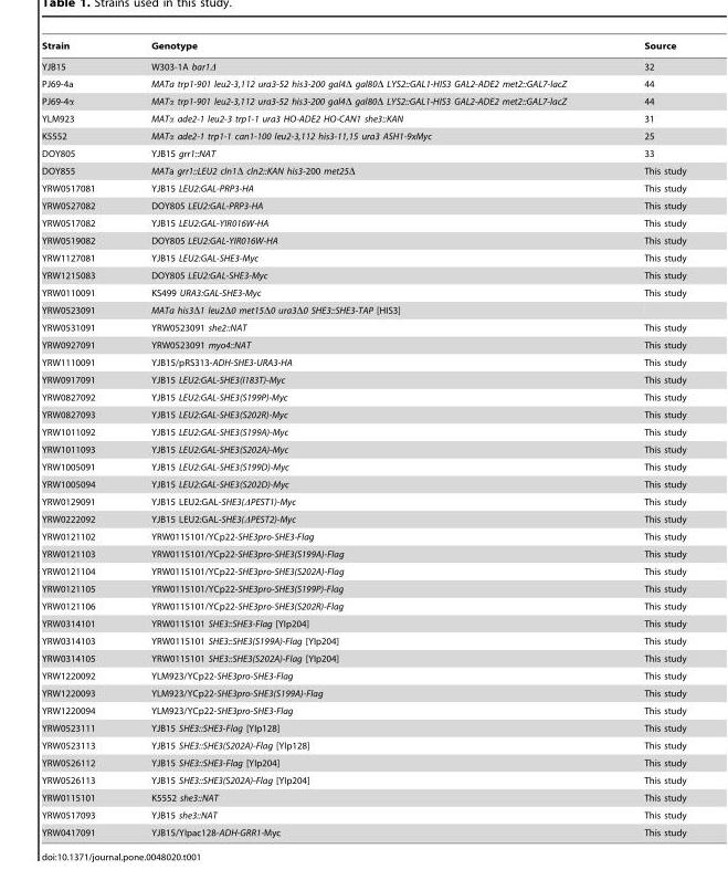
<table><thead><tr><td>Strain</td><td>Genotype</td><td>Source</td></tr></thead><tbody><tr><td>YJB15</td><td>W303-1A bar1Δ</td><td>32</td></tr><tr><td>PJ69-4a</td><td>MATa trp1-901 leu2-3,112 ura3-52 his3-200 gal4Δ gal80Δ LYS2::GAL1-HIS3 GAL2-ADE2 met2::GAL7-lacZ</td><td>44</td></tr><tr><td>PJ69-4α</td><td>MATα trp1-901 leu2-3,112 ura3-52 his3-200 gal4Δ gal80Δ LYS2::GAL1-HIS3 GAL2-ADE2 met2::GAL7-lacZ</td><td>44</td></tr><tr><td>YLM923</td><td>MATα ade2-1 leu2-3 trp1-1 ura3 HO-ADE2 HO-CAN1 she3::KAN</td><td>31</td></tr><tr><td>K5552</td><td>MATα ade2-1 trp1-1 can1-100 leu2-3,112 his3-11,15 ura3 ASH1-9xMyc</td><td>25</td></tr><tr><td>DOY805</td><td>YJB15 grr1::NAT</td><td>33</td></tr><tr><td>DOY855</td><td>MATa grr1::LEU2 cln1Δ cln2::KAN his3-200 met25Δ</td><td>This study</td></tr><tr><td>YRW0517081</td><td>YJB15 LEU2:GAL-PRP3-HA</td><td>This study</td></tr><tr><td>YRW0527082</td><td>DOY805 LEU2:GAL-PRP3-HA</td><td>This study</td></tr><tr><td>YRW0517082</td><td>YJB15 LEU2:GAL-YIR016W-HA</td><td>This study</td></tr><tr><td>YRW0519082</td><td>DOY805 LEU2:GAL-YIR016W-HA</td><td>This study</td></tr><tr><td>YRW1127081</td><td>YJB15 LEU2:GAL-SHE3-Myc</td><td>This study</td></tr><tr><td>YRW1215083</td><td>DOY805 LEU2:GAL-SHE3-Myc</td><td>This study</td></tr><tr><td>YRW0110091</td><td>KS499 URA3:GAL-SHE3-Myc</td><td>This study</td></tr><tr><td>YRW0523091</td><td>MATa his3Δ1 leu2Δ0 met15Δ0 ura3Δ0 SHE3::SHE3-TAP [HIS3]</td><td></td></tr><tr><td>YRW0531091</td><td>YRW0523091 she2::NAT</td><td>This study</td></tr><tr><td>YRW0927091</td><td>YRW0523091 myo4::NAT</td><td>This study</td></tr><tr><td>YRW1110091</td><td>YJB15/pRS313-ADH-SHE3-URA3-HA</td><td>This study</td></tr><tr><td>YRW0917091</td><td>YJB15 LEU2:GAL-SHE3(I183T)-Myc</td><td>This study</td></tr><tr><td>YRW0827092</td><td>YJB15 LEU2:GAL-SHE3(S199P)-Myc</td><td>This study</td></tr><tr><td>YRW0827093</td><td>YJB15 LEU2:GAL-SHE3(S202R)-Myc</td><td>This study</td></tr><tr><td>YRW1011092</td><td>YJB15 LEU2:GAL-SHE3(S199A)-Myc</td><td>This study</td></tr><tr><td>YRW1011093</td><td>YJB15 LEU2:GAL-SHE3(S202A)-Myc</td><td>This study</td></tr><tr><td>YRW1005091</td><td>YJB15 LEU2:GAL-SHE3(S199D)-Myc</td><td>This study</td></tr><tr><td>YRW1005094</td><td>YJB15 LEU2:GAL-SHE3(S202D)-Myc</td><td>This study</td></tr><tr><td>YRW0129091</td><td>YJB15 LEU2:GAL-SHE3(ΔPEST1)-Myc</td><td>This study</td></tr><tr><td>YRW0222092</td><td>YJB15 LEU2:GAL-SHE3(ΔPEST2)-Myc</td><td>This study</td></tr><tr><td>YRW0121102</td><td>YRW0115101/YCp22-SHE3pro-SHE3-Flag</td><td>This study</td></tr><tr><td>YRW0121103</td><td>YRW0115101/YCp22-SHE3pro-SHE3(S199A)-Flag</td><td>This study</td></tr><tr><td>YRW0121104</td><td>YRW0115101/YCp22-SHE3pro-SHE3(S202A)-Flag</td><td>This study</td></tr><tr><td>YRW0121105</td><td>YRW0115101/YCp22-SHE3pro-SHE3(S199P)-Flag</td><td>This study</td></tr><tr><td>YRW0121106</td><td>YRW0115101/YCp22-SHE3pro-SHE3(S202R)-Flag</td><td>This study</td></tr><tr><td>YRW0314101</td><td>YRW0115101 SHE3::SHE3-Flag [YIp204]</td><td>This study</td></tr><tr><td>YRW0314103</td><td>YRW0115101 SHE3::SHE3(S199A)-Flag [YIp204]</td><td>This study</td></tr><tr><td>YRW0314105</td><td>YRW0115101 SHE3::SHE3(S202A)-Flag [YIp204]</td><td>This study</td></tr><tr><td>YRW1220092</td><td>YLM923/YCp22-SHE3pro-SHE3-Flag</td><td>This study</td></tr><tr><td>YRW1220093</td><td>YLM923/YCp22-SHE3pro-SHE3(S199A)-Flag</td><td>This study</td></tr><tr><td>YRW1220094</td><td>YLM923/YCp22-SHE3pro-SHE3-Flag</td><td>This study</td></tr><tr><td>YRW0523111</td><td>YJB15 SHE3::SHE3-Flag [YIp128]</td><td>This study</td></tr><tr><td>YRW0523113</td><td>YJB15 SHE3::SHE3(S202A)-Flag [YIp128]</td><td>This study</td></tr><tr><td>YRW0526112</td><td>YJB15 SHE3::SHE3-Flag [YIp204]</td><td>This study</td></tr><tr><td>YRW0526113</td><td>YJB15 SHE3::SHE3(S202A)-Flag [YIp204]</td><td>This study</td></tr><tr><td>YRW0115101</td><td>K5552 she3::NAT</td><td>This study</td></tr><tr><td>YRW0517093</td><td>YJB15 she3::NAT</td><td>This study</td></tr><tr><td>YRW0417091</td><td>YJB15/YIpac128-ADH-GRR1-Myc</td><td>This study</td></tr></tbody></table>